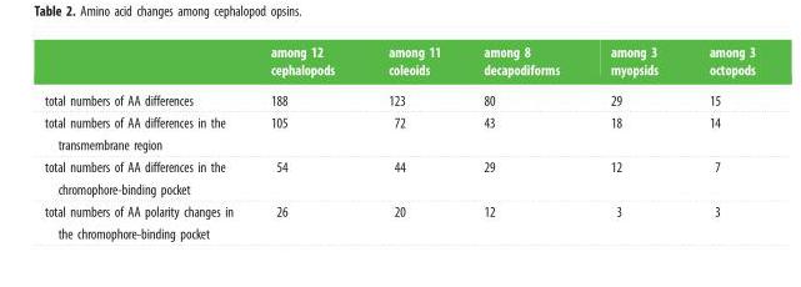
<table><thead><tr><td></td><td>among 12 cephalopods</td><td>among 11 coleoids</td><td>among 8 decapodiforms</td><td>among 3 myopsids</td><td>among 3 octopods</td></tr></thead><tbody><tr><td>total numbers of AA differences</td><td>188</td><td>123</td><td>80</td><td>29</td><td>15</td></tr><tr><td>total numbers of AA differences in the transmembrane region</td><td>105</td><td>72</td><td>43</td><td>18</td><td>14</td></tr><tr><td>total numbers of AA differences in the chromophore-binding pocket</td><td>54</td><td>44</td><td>29</td><td>12</td><td>7</td></tr><tr><td>total numbers of AA polarity changes in the chromophore-binding pocket</td><td>26</td><td>20</td><td>12</td><td>3</td><td>3</td></tr></tbody></table>